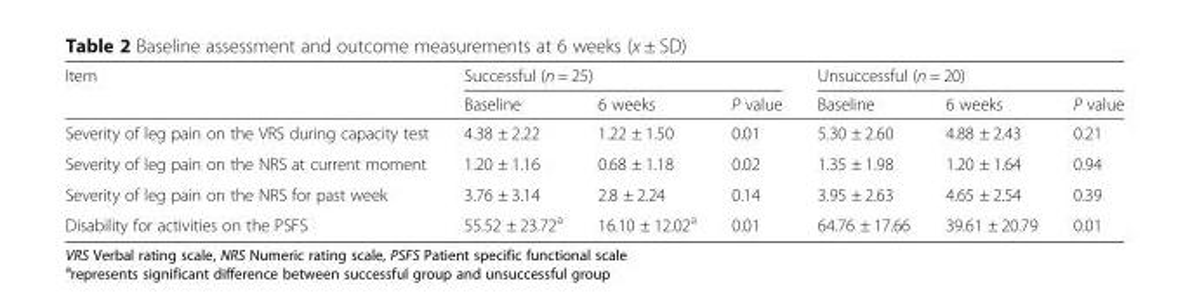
<table><thead><tr><td rowspan="2">Item</td><td colspan="3">Successful (n = 25)</td><td colspan="3">Unsuccessful (n = 20)</td></tr><tr><td>Baseline</td><td>6 weeks</td><td>P value</td><td>Baseline</td><td>6 weeks</td><td>P value</td></tr></thead><tbody><tr><td>Severity of leg pain on the VRS during capacity test</td><td>4.38 ± 2.22</td><td>1.22 ± 1.50</td><td>0.01</td><td>5.30 ± 2.60</td><td>4.88 ± 2.43</td><td>0.21</td></tr><tr><td>Severity of leg pain on the NRS at current moment</td><td>1.20 ± 1.16</td><td>0.68 ± 1.18</td><td>0.02</td><td>1.35 ± 1.98</td><td>1.20 ± 1.64</td><td>0.94</td></tr><tr><td>Severity of leg pain on the NRS for past week</td><td>3.76 ± 3.14</td><td>2.8 ± 2.24</td><td>0.14</td><td>3.95 ± 2.63</td><td>4.65 ± 2.54</td><td>0.39</td></tr><tr><td>Disability for activities on the PSFS</td><td>55.52 ± 23.72<sup>a</sup></td><td>16.10 ± 12.02<sup>a</sup></td><td>0.01</td><td>64.76 ± 17.66</td><td>39.61 ± 20.79</td><td>0.01</td></tr></tbody></table>